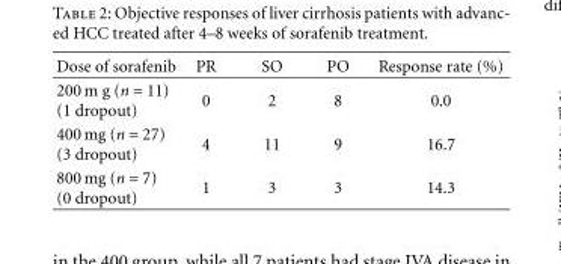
<table><thead><tr><td>Dose of sorafenib</td><td>PR</td><td>SO</td><td>PO</td><td>Response rate (%)</td></tr></thead><tbody><tr><td>200 m g (n = 11) (1 dropout)</td><td>0</td><td>2</td><td>8</td><td>0.0</td></tr><tr><td>400 mg (n = 27) (3 dropout)</td><td>4</td><td>11</td><td>9</td><td>16.7</td></tr><tr><td>800 mg (n = 7) (0 dropout)</td><td>1</td><td>3</td><td>3</td><td>14.3</td></tr></tbody></table>